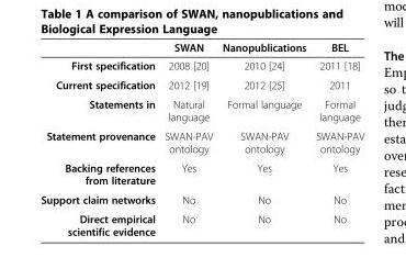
<table><thead><tr><td></td><td>SWAN</td><td>Nanopublications</td><td>BEL</td></tr></thead><tbody><tr><td>First specification</td><td>2008 [20]</td><td>2010 [24]</td><td>2011 [18]</td></tr><tr><td>Current specification</td><td>2012 [19]</td><td>2012 [25]</td><td>2011</td></tr><tr><td>Statements in</td><td>Natural language</td><td>Formal language</td><td>Formal language</td></tr><tr><td>Statement provenance</td><td>SWAN-PAV ontology</td><td>SWAN-PAV ontology</td><td>SWAN-PAV ontology</td></tr><tr><td>Backing references from literature</td><td>Yes</td><td>Yes</td><td>Yes</td></tr><tr><td>Support claim networks</td><td>No</td><td>No</td><td>No</td></tr><tr><td>Direct empirical scientific evidence</td><td>No</td><td>No</td><td>No</td></tr></tbody></table>